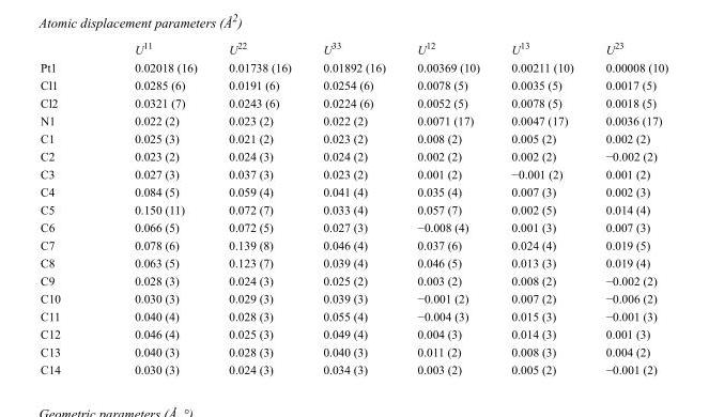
<table><thead><tr><td></td><td>U<sup>11</sup></td><td>U<sup>22</sup></td><td>U<sup>33</sup></td><td>U<sup>12</sup></td><td>U<sup>13</sup></td><td>U<sup>23</sup></td></tr></thead><tbody><tr><td>Pt1</td><td>0.02018 (16)</td><td>0.01738 (16)</td><td>0.01892 (16)</td><td>0.00369 (10)</td><td>0.00211 (10)</td><td>0.00008 (10)</td></tr><tr><td>Cl1</td><td>0.0285 (6)</td><td>0.0191 (6)</td><td>0.0254 (6)</td><td>0.0078 (5)</td><td>0.0035 (5)</td><td>0.0017 (5)</td></tr><tr><td>Cl2</td><td>0.0321 (7)</td><td>0.0243 (6)</td><td>0.0224 (6)</td><td>0.0052 (5)</td><td>0.0078 (5)</td><td>0.0018 (5)</td></tr><tr><td>N1</td><td>0.022 (2)</td><td>0.023 (2)</td><td>0.022 (2)</td><td>0.0071 (17)</td><td>0.0047 (17)</td><td>0.0036 (17)</td></tr><tr><td>C1</td><td>0.025 (3)</td><td>0.021 (2)</td><td>0.023 (2)</td><td>0.008 (2)</td><td>0.005 (2)</td><td>0.002 (2)</td></tr><tr><td>C2</td><td>0.023 (2)</td><td>0.024 (3)</td><td>0.024 (2)</td><td>0.002 (2)</td><td>0.002 (2)</td><td>−0.002 (2)</td></tr><tr><td>C3</td><td>0.027 (3)</td><td>0.037 (3)</td><td>0.023 (2)</td><td>0.001 (2)</td><td>−0.001 (2)</td><td>0.001 (2)</td></tr><tr><td>C4</td><td>0.084 (5)</td><td>0.059 (4)</td><td>0.041 (4)</td><td>0.035 (4)</td><td>0.007 (3)</td><td>0.002 (3)</td></tr><tr><td>C5</td><td>0.150 (11)</td><td>0.072 (7)</td><td>0.033 (4)</td><td>0.057 (7)</td><td>0.002 (5)</td><td>0.014 (4)</td></tr><tr><td>C6</td><td>0.066 (5)</td><td>0.072 (5)</td><td>0.027 (3)</td><td>−0.008 (4)</td><td>0.001 (3)</td><td>0.007 (3)</td></tr><tr><td>C7</td><td>0.078 (6)</td><td>0.139 (8)</td><td>0.046 (4)</td><td>0.037 (6)</td><td>0.024 (4)</td><td>0.019 (5)</td></tr><tr><td>C8</td><td>0.063 (5)</td><td>0.123 (7)</td><td>0.039 (4)</td><td>0.046 (5)</td><td>0.013 (3)</td><td>0.019 (4)</td></tr><tr><td>C9</td><td>0.028 (3)</td><td>0.024 (3)</td><td>0.025 (2)</td><td>0.003 (2)</td><td>0.008 (2)</td><td>−0.002 (2)</td></tr><tr><td>C10</td><td>0.030 (3)</td><td>0.029 (3)</td><td>0.039 (3)</td><td>−0.001 (2)</td><td>0.007 (2)</td><td>−0.006 (2)</td></tr><tr><td>C11</td><td>0.040 (4)</td><td>0.028 (3)</td><td>0.055 (4)</td><td>−0.004 (3)</td><td>0.015 (3)</td><td>−0.001 (3)</td></tr><tr><td>C12</td><td>0.046 (4)</td><td>0.025 (3)</td><td>0.049 (4)</td><td>0.004 (3)</td><td>0.014 (3)</td><td>0.001 (3)</td></tr><tr><td>C13</td><td>0.040 (3)</td><td>0.028 (3)</td><td>0.040 (3)</td><td>0.011 (2)</td><td>0.008 (3)</td><td>0.004 (2)</td></tr><tr><td>C14</td><td>0.030 (3)</td><td>0.024 (3)</td><td>0.034 (3)</td><td>0.003 (2)</td><td>0.005 (2)</td><td>−0.001 (2)</td></tr></tbody></table>